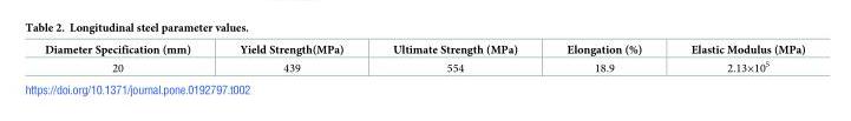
<table><thead><tr><td>Diameter Specification (mm)</td><td>Yield Strength(MPa)</td><td>Ultimate Strength (MPa)</td><td>Elongation (%)</td><td>Elastic Modulus (MPa)</td></tr></thead><tbody><tr><td>20</td><td>439</td><td>554</td><td>18.9</td><td>2.13×10<sup>5</sup></td></tr></tbody></table>